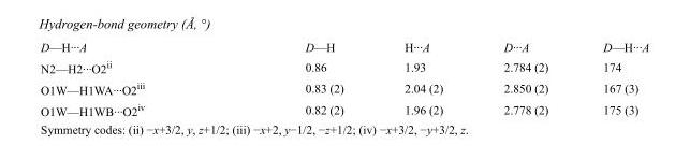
<table><tbody><tr><td>D—H···A</td><td>D—H</td><td>H···A</td><td>D···A</td><td>D—H···A</td></tr><tr><td>N2—H2···O2<sup>ii</sup></td><td>0.86</td><td>1.93</td><td>2.784 (2)</td><td>174</td></tr><tr><td>O1W—H1WA···O2<sup>iii</sup></td><td>0.83 (2)</td><td>2.04 (2)</td><td>2.850 (2)</td><td>167 (3)</td></tr><tr><td>O1W—H1WB···O2<sup>iv</sup></td><td>0.82 (2)</td><td>1.96 (2)</td><td>2.778 (2)</td><td>175 (3)</td></tr></tbody></table>